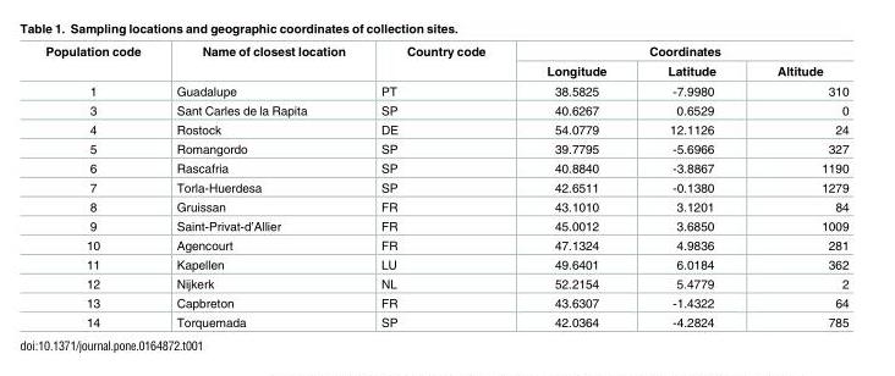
<table><thead><tr><td rowspan="2">Population code</td><td rowspan="2">Name of closest location</td><td rowspan="2">Country code</td><td colspan="3">Coordinates</td></tr><tr><td>Longitude</td><td>Latitude</td><td>Altitude</td></tr></thead><tbody><tr><td>1</td><td>Guadalupe</td><td>PT</td><td>38.5825</td><td>-7.9980</td><td>310</td></tr><tr><td>3</td><td>Sant Carles de la Rapita</td><td>SP</td><td>40.6267</td><td>0.6529</td><td>0</td></tr><tr><td>4</td><td>Rostock</td><td>DE</td><td>54.0779</td><td>12.1126</td><td>24</td></tr><tr><td>5</td><td>Romangordo</td><td>SP</td><td>39.7795</td><td>-5.6966</td><td>327</td></tr><tr><td>6</td><td>Rascafria</td><td>SP</td><td>40.8840</td><td>-3.8867</td><td>1190</td></tr><tr><td>7</td><td>Torla-Huerdesa</td><td>SP</td><td>42.6511</td><td>-0.1380</td><td>1279</td></tr><tr><td>8</td><td>Gruissan</td><td>FR</td><td>43.1010</td><td>3.1201</td><td>84</td></tr><tr><td>9</td><td>Saint-Privat-d’Allier</td><td>FR</td><td>45.0012</td><td>3.6850</td><td>1009</td></tr><tr><td>10</td><td>Agencourt</td><td>FR</td><td>47.1324</td><td>4.9836</td><td>281</td></tr><tr><td>11</td><td>Kapellen</td><td>LU</td><td>49.6401</td><td>6.0184</td><td>362</td></tr><tr><td>12</td><td>Nijkerk</td><td>NL</td><td>52.2154</td><td>5.4779</td><td>2</td></tr><tr><td>13</td><td>Capbreton</td><td>FR</td><td>43.6307</td><td>-1.4322</td><td>64</td></tr><tr><td>14</td><td>Torquemada</td><td>SP</td><td>42.0364</td><td>-4.2824</td><td>785</td></tr></tbody></table>